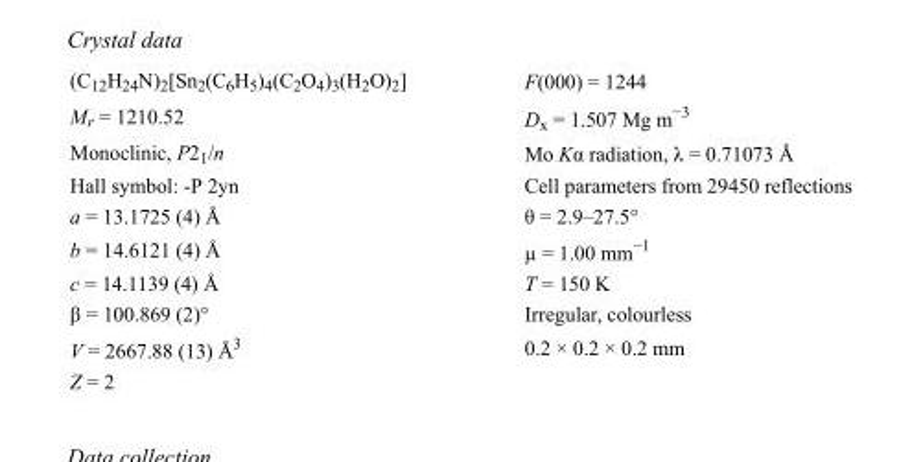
<table><tbody><tr><td>(C<sub>12</sub>H<sub>24</sub>N)<sub>2</sub>[Sn<sub>2</sub>(C<sub>6</sub>H<sub>5</sub>)<sub>4</sub>(C<sub>2</sub>O<sub>4</sub>)<sub>3</sub>(H<sub>2</sub>O)<sub>2</sub>]</td><td>F(000) = 1244</td></tr><tr><td>M<sub>r</sub> = 1210.52</td><td>D<sub>x</sub> = 1.507 Mg m<sup>−3</sup></td></tr><tr><td>Monoclinic, P2<sub>1</sub>/n</td><td>Mo Kα radiation, λ = 0.71073 Å</td></tr><tr><td>Hall symbol: -P 2yn</td><td>Cell parameters from 29450 reflections</td></tr><tr><td>a = 13.1725 (4) Å</td><td>θ = 2.9–27.5°</td></tr><tr><td>b = 14.6121 (4) Å</td><td>µ = 1.00 mm<sup>−1</sup></td></tr><tr><td>c = 14.1139 (4) Å</td><td>T = 150 K</td></tr><tr><td>β = 100.869 (2)°</td><td>Irregular, colourless</td></tr><tr><td>V = 2667.88 (13) Å<sup>3</sup></td><td>0.2 × 0.2 × 0.2 mm</td></tr><tr><td>Z = 2</td><td></td></tr></tbody></table>